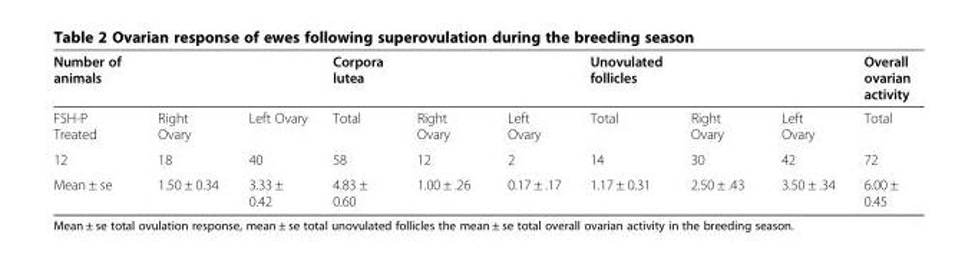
<table><thead><tr><td>Number of animals</td><td></td><td></td><td>Corpora lutea</td><td></td><td></td><td>Unovulated follicles</td><td></td><td></td><td>Overall ovarian activity</td></tr></thead><tbody><tr><td>FSH-P Treated</td><td>Right Ovary</td><td>Left Ovary</td><td>Total</td><td>Right Ovary</td><td>Left Ovary</td><td>Total</td><td>Right Ovary</td><td>Left Ovary</td><td>Total</td></tr><tr><td>12</td><td>18</td><td>40</td><td>58</td><td>12</td><td>2</td><td>14</td><td>30</td><td>42</td><td>72</td></tr><tr><td>Mean ± se</td><td>1.50 ± 0.34</td><td>3.33 ± 0.42</td><td>4.83 ± 0.60</td><td>1.00 ± .26</td><td>0.17 ± .17</td><td>1.17 ± 0.31</td><td>2.50 ± .43</td><td>3.50 ± .34</td><td>6.00 ± 0.45</td></tr></tbody></table>